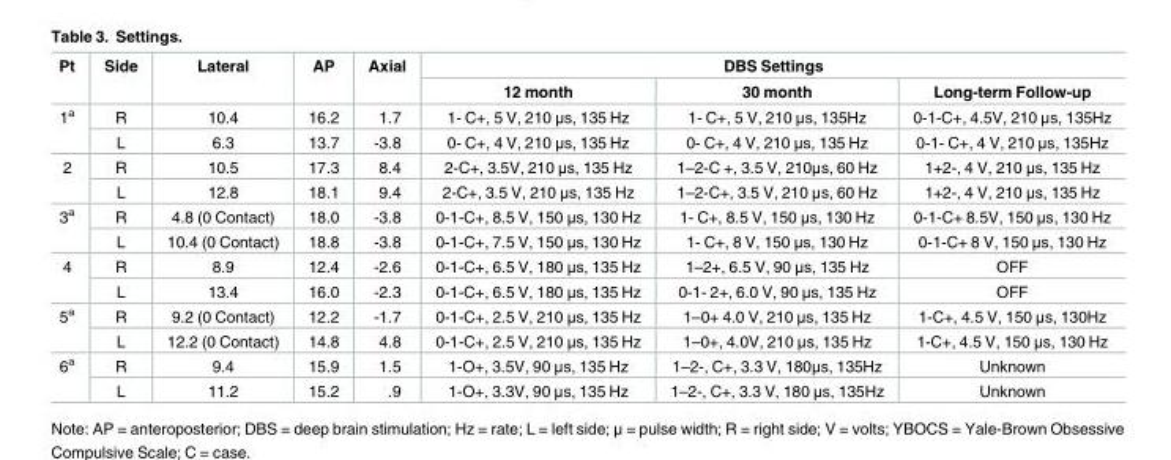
<table><thead><tr><td rowspan="2">Pt</td><td rowspan="2">Side</td><td rowspan="2">Lateral</td><td rowspan="2">AP</td><td rowspan="2">Axial</td><td colspan="3">DBS Settings</td></tr><tr><td>12 month</td><td>30 month</td><td>Long-term Follow-up</td></tr></thead><tbody><tr><td rowspan="2">1<sup>a</sup></td><td>R</td><td>10.4</td><td>16.2</td><td>1.7</td><td>1- C+, 5 V, 210 μs, 135 Hz</td><td>1- C+, 5 V, 210 μs, 135Hz</td><td>0-1-C+, 4.5V, 210 μs, 135Hz</td></tr><tr><td>L</td><td>6.3</td><td>13.7</td><td>-3.8</td><td>0- C+, 4 V, 210 μs, 135 Hz</td><td>0- C+, 4 V, 210 μs, 135 Hz</td><td>0-1- C+, 4 V, 210 μs, 135Hz</td></tr><tr><td rowspan="2">2</td><td>R</td><td>10.5</td><td>17.3</td><td>8.4</td><td>2-C+, 3.5V, 210 μs, 135 Hz</td><td>1–2-C +, 3.5 V, 210μs, 60 Hz</td><td>1+2-, 4 V, 210 μs, 135 Hz</td></tr><tr><td>L</td><td>12.8</td><td>18.1</td><td>9.4</td><td>2-C+, 3.5 V, 210 μs, 135 Hz</td><td>1–2-C+, 3.5 V, 210 μs, 60 Hz</td><td>1+2-, 4 V, 210 μs, 135 Hz</td></tr><tr><td rowspan="2">3<sup>a</sup></td><td>R</td><td>4.8 (0 Contact)</td><td>18.0</td><td>-3.8</td><td>0-1-C+, 8.5 V, 150 μs, 130 Hz</td><td>1- C+, 8.5 V, 150 μs, 130 Hz</td><td>0-1-C+ 8.5V, 150 μs, 130 Hz</td></tr><tr><td>L</td><td>10.4 (0 Contact)</td><td>18.8</td><td>-3.8</td><td>0-1-C+, 7.5 V, 150 μs, 130 Hz</td><td>1- C+, 8 V, 150 μs, 130 Hz</td><td>0-1-C+ 8 V, 150 μs, 130 Hz</td></tr><tr><td rowspan="2">4</td><td>R</td><td>8.9</td><td>12.4</td><td>-2.6</td><td>0-1-C+, 6.5 V, 180 μs, 135 Hz</td><td>1–2+, 6.5 V, 90 μs, 135 Hz</td><td>OFF</td></tr><tr><td>L</td><td>13.4</td><td>16.0</td><td>-2.3</td><td>0-1-C+, 6.5 V, 180 μs, 135 Hz</td><td>0-1- 2+, 6.0 V, 90 μs, 135 Hz</td><td>OFF</td></tr><tr><td rowspan="2">5<sup>a</sup></td><td>R</td><td>9.2 (0 Contact)</td><td>12.2</td><td>-1.7</td><td>0-1-C+, 2.5 V, 210 μs, 135 Hz</td><td>1–0+ 4.0 V, 210 μs, 135 Hz</td><td>1-C+, 4.5 V, 150 μs, 130Hz</td></tr><tr><td>L</td><td>12.2 (0 Contact)</td><td>14.8</td><td>4.8</td><td>0-1-C+, 2.5 V, 210 μs, 135 Hz</td><td>1–0+, 4.0V, 210 μs, 135 Hz</td><td>1-C+, 4.5 V, 150 μs, 130 Hz</td></tr><tr><td rowspan="2">6<sup>a</sup></td><td>R</td><td>9.4</td><td>15.9</td><td>1.5</td><td>1-O+, 3.5V, 90 μs, 135 Hz</td><td>1–2-, C+, 3.3 V, 180μs, 135Hz</td><td>Unknown</td></tr><tr><td>L</td><td>11.2</td><td>15.2</td><td>.9</td><td>1-O+, 3.3V, 90 μs, 135 Hz</td><td>1–2-, C+, 3.3 V, 180 μs, 135Hz</td><td>Unknown</td></tr></tbody></table>